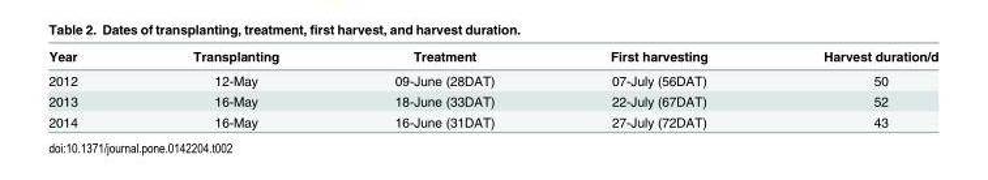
<table><thead><tr><td>Year</td><td>Transplanting</td><td>Treatment</td><td>First harvesting</td><td>Harvest duration/d</td></tr></thead><tbody><tr><td>2012</td><td>12-May</td><td>09-June (28DAT)</td><td>07-July (56DAT)</td><td>50</td></tr><tr><td>2013</td><td>16-May</td><td>18-June (33DAT)</td><td>22-July (67DAT)</td><td>52</td></tr><tr><td>2014</td><td>16-May</td><td>16-June (31DAT)</td><td>27-July (72DAT)</td><td>43</td></tr></tbody></table>